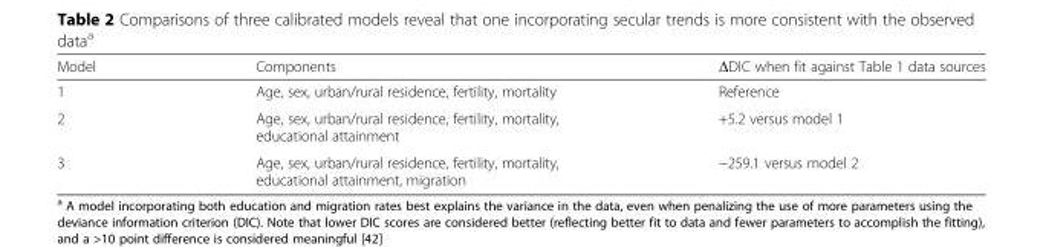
<table><thead><tr><td>Model</td><td>Components</td><td>ΔDIC when fit against Table 1 data sources</td></tr></thead><tbody><tr><td>1</td><td>Age, sex, urban/rural residence, fertility, mortality</td><td>Reference</td></tr><tr><td>2</td><td>Age, sex, urban/rural residence, fertility, mortality, educational attainment</td><td>+5.2 versus model 1</td></tr><tr><td>3</td><td>Age, sex, urban/rural residence, fertility, mortality, educational attainment, migration</td><td>−259.1 versus model 2</td></tr></tbody></table>